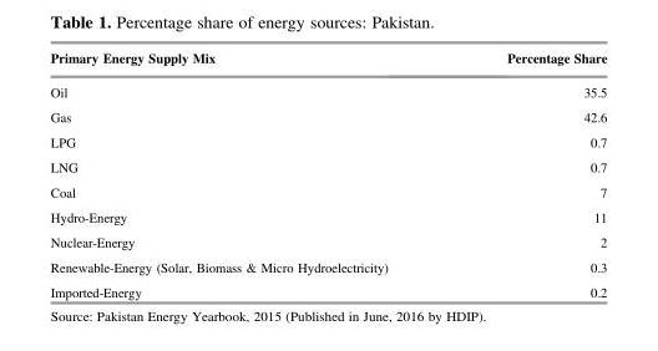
<table><thead><tr><td>Primary Energy Supply Mix</td><td>Percentage Share</td></tr></thead><tbody><tr><td>Oil</td><td>35.5</td></tr><tr><td>Gas</td><td>42.6</td></tr><tr><td>LPG</td><td>0.7</td></tr><tr><td>LNG</td><td>0.7</td></tr><tr><td>Coal</td><td>7</td></tr><tr><td>Hydro-Energy</td><td>11</td></tr><tr><td>Nuclear-Energy</td><td>2</td></tr><tr><td>Renewable-Energy (Solar, Biomass &amp; Micro Hydroelectricity)</td><td>0.3</td></tr><tr><td>Imported-Energy</td><td>0.2</td></tr></tbody></table>